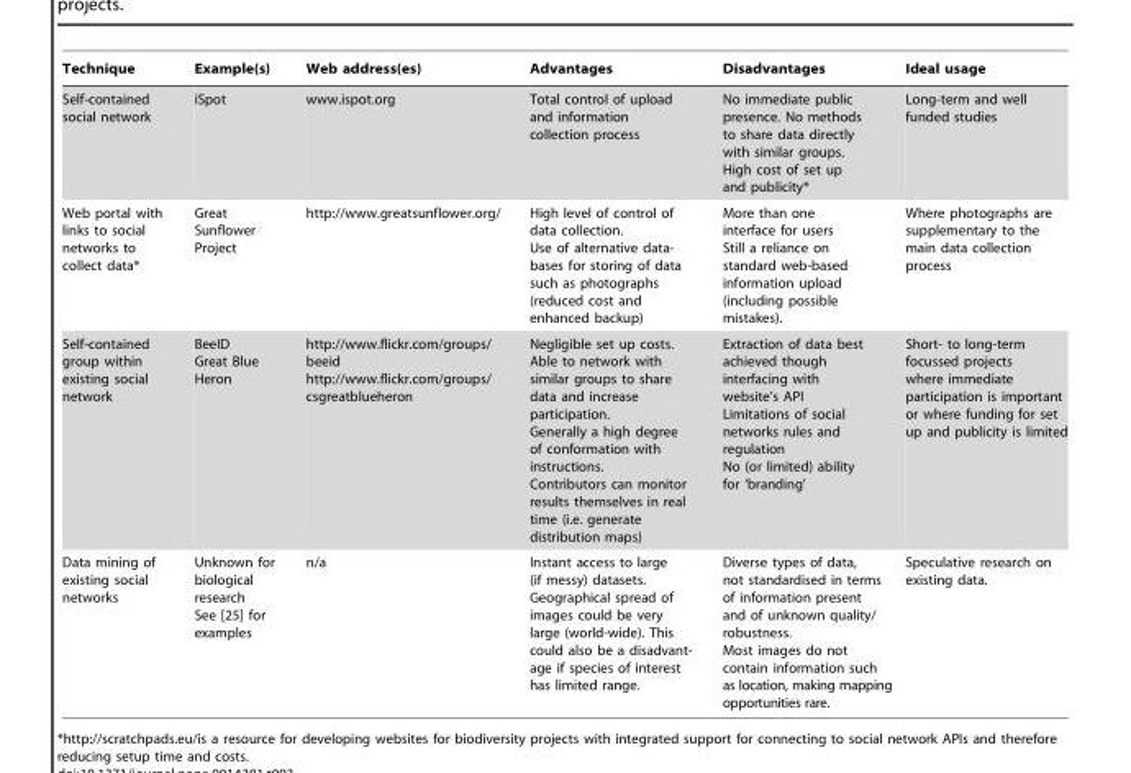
<table><thead><tr><td>Technique</td><td>Example(s)</td><td>Web address(es)</td><td>Advantages</td><td>Disadvantages</td><td>Ideal usage</td></tr></thead><tbody><tr><td>Self-contained social network</td><td>iSpot</td><td>www.ispot.org</td><td>Total control of upload and information collection process</td><td>No immediate public presence. No methods to share data directly with similar groups. High cost of set up and publicity*</td><td>Long-term and well funded studies</td></tr><tr><td>Web portal with links to social networks to collect data*</td><td>Great Sunflower Project</td><td>http://www.greatsunflower.org/</td><td>High level of control of data collection. Use of alternative data- bases for storing of data such as photographs (reduced cost and enhanced backup)</td><td>More than one interface for users Still a reliance on standard web-based information upload (including possible mistakes).</td><td>Where photographs are supplementary to the main data collection process</td></tr><tr><td>Self-contained group within existing social network</td><td>BeeID Great Blue Heron</td><td>http://www.flickr.com/groups/ beeid http://www.flickr.com/groups/ csgreatblueheron</td><td>Negligible set up costs. Able to network with similar groups to share data and increase participation. Generally a high degree of conformation with instructions. Contributors can monitor results themselves in real time (i.e. generate distribution maps)</td><td>Extraction of data best achieved though interfacing with website’s API Limitations of social networks rules and regulation No (or limited) ability for ‘branding’</td><td>Short- to long-term focussed projects where immediate participation is important or where funding for set up and publicity is limited</td></tr><tr><td>Data mining of existing social networks</td><td>Unknown for biological research See [25] for examples</td><td>n/a</td><td>Instant access to large (if messy) datasets. Geographical spread of images could be very large (world-wide). This could also be a disadvant- age if species of interest has limited range.</td><td>Diverse types of data, not standardised in terms of information present and of unknown quality/ robustness. Most images do not contain information such as location, making mapping opportunities rare.</td><td>Speculative research on existing data.</td></tr></tbody></table>